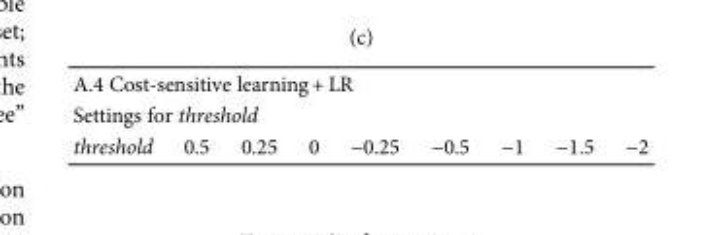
<table><tbody><tr><td colspan="9">A.4 Cost-sensitive learning + LR</td></tr><tr><td colspan="9">Settings for threshold</td></tr><tr><td>threshold</td><td>0.5</td><td>0.25</td><td>0</td><td>−0.25</td><td>−0.5</td><td>−1</td><td>−1.5</td><td>−2</td></tr></tbody></table>